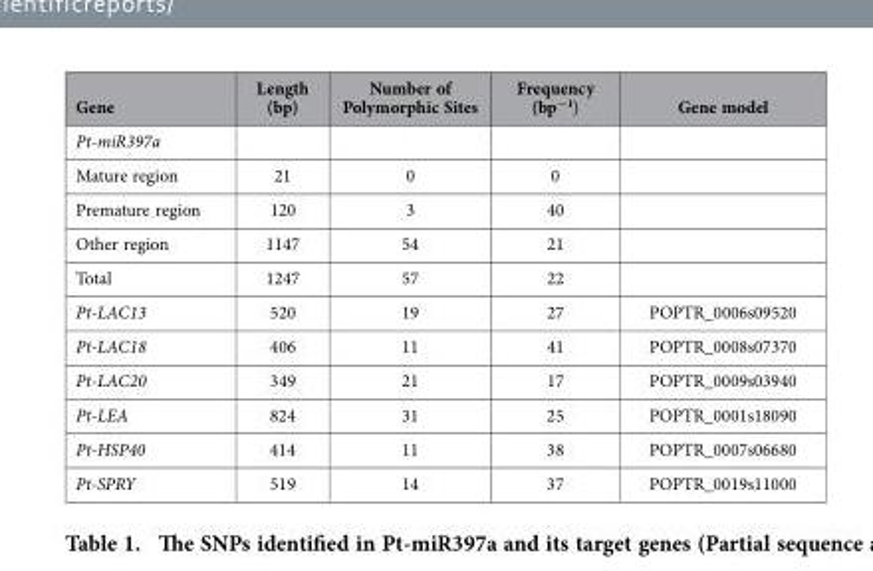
<table><thead><tr><td>Gene</td><td>Length (bp)</td><td>Number of Polymorphic Sites</td><td>Frequency (bp<sup>−1</sup>)</td><td>Gene model</td></tr></thead><tbody><tr><td colspan="5">Pt-miR397a</td></tr><tr><td>Mature region</td><td>21</td><td>0</td><td>0</td><td></td></tr><tr><td>Premature region</td><td>120</td><td>3</td><td>40</td><td></td></tr><tr><td>Other region</td><td>1147</td><td>54</td><td>21</td><td></td></tr><tr><td>Total</td><td>1247</td><td>57</td><td>22</td><td></td></tr><tr><td>Pt-LAC13</td><td>520</td><td>19</td><td>27</td><td>POPTR_0006s09520</td></tr><tr><td>Pt-LAC18</td><td>406</td><td>11</td><td>41</td><td>POPTR_0008s07370</td></tr><tr><td>Pt-LAC20</td><td>349</td><td>21</td><td>17</td><td>POPTR_0009s03940</td></tr><tr><td>Pt-LEA</td><td>824</td><td>31</td><td>25</td><td>POPTR_0001s18090</td></tr><tr><td>Pt-HSP40</td><td>414</td><td>11</td><td>38</td><td>POPTR_0007s06680</td></tr><tr><td>Pt-SPRY</td><td>519</td><td>14</td><td>37</td><td>POPTR_0019s11000</td></tr></tbody></table>